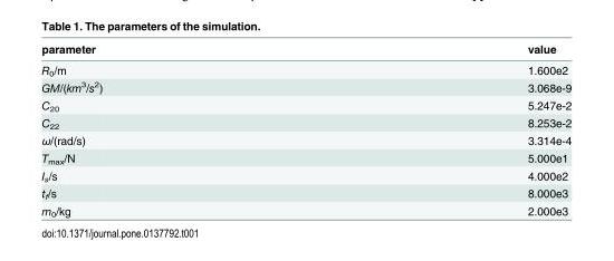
<table><thead><tr><td>parameter</td><td>value</td></tr></thead><tbody><tr><td>R<sub>0</sub>/m</td><td>1.600e2</td></tr><tr><td>GM/(km<sup>3</sup>/s<sup>2</sup>)</td><td>3.068e-9</td></tr><tr><td>C<sub>20</sub></td><td>5.247e-2</td></tr><tr><td>C<sub>22</sub></td><td>8.253e-2</td></tr><tr><td>ω/(rad/s)</td><td>3.314e-4</td></tr><tr><td>T<sub>max</sub>/N</td><td>5.000e1</td></tr><tr><td>I<sub>s</sub>/s</td><td>4.000e2</td></tr><tr><td>t<sub>f</sub>/s</td><td>8.000e3</td></tr><tr><td>m<sub>0</sub>/kg</td><td>2.000e3</td></tr></tbody></table>